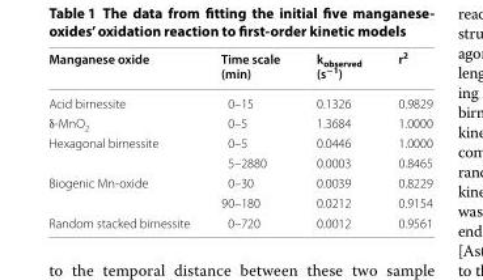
<table><thead><tr><td>Manganese oxide</td><td>Time scale (min)</td><td>k<sub>observed</sub> (s<sup>−1</sup>)</td><td>r<sup>2</sup></td></tr></thead><tbody><tr><td>Acid birnessite</td><td>0–15</td><td>0.1326</td><td>0.9829</td></tr><tr><td>δ-MnO<sub>2</sub></td><td>0–5</td><td>1.3684</td><td>1.0000</td></tr><tr><td rowspan="2">Hexagonal birnessite</td><td>0–5</td><td>0.0446</td><td>1.0000</td></tr><tr><td>5–2880</td><td>0.0003</td><td>0.8465</td></tr><tr><td rowspan="2">Biogenic Mn-oxide</td><td>0–30</td><td>0.0039</td><td>0.8229</td></tr><tr><td>90–180</td><td>0.0212</td><td>0.9154</td></tr><tr><td>Random stacked birnessite</td><td>0–720</td><td>0.0012</td><td>0.9561</td></tr></tbody></table>